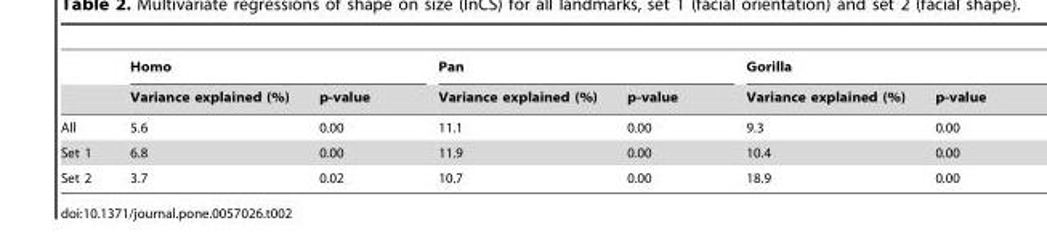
<table><thead><tr><td rowspan="2"></td><td colspan="2">Homo</td><td colspan="2">Pan</td><td colspan="2">Gorilla</td></tr><tr><td>Variance explained (%)</td><td>p-value</td><td>Variance explained (%)</td><td>p-value</td><td>Variance explained (%)</td><td>p-value</td></tr></thead><tbody><tr><td>All</td><td>5.6</td><td>0.00</td><td>11.1</td><td>0.00</td><td>9.3</td><td>0.00</td></tr><tr><td>Set 1</td><td>6.8</td><td>0.00</td><td>11.9</td><td>0.00</td><td>10.4</td><td>0.00</td></tr><tr><td>Set 2</td><td>3.7</td><td>0.02</td><td>10.7</td><td>0.00</td><td>18.9</td><td>0.00</td></tr></tbody></table>